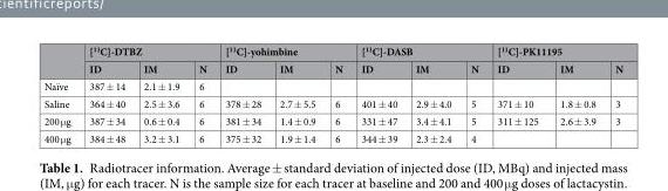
<table><thead><tr><td rowspan="2"></td><td colspan="3">[<sup>11</sup>C]-DTBZ</td><td colspan="3">[<sup>11</sup>C]-yohimbine</td><td colspan="3">[<sup>11</sup>C]-DASB</td><td colspan="3">[<sup>11</sup>C]-PK11195</td></tr><tr><td>ID</td><td>IM</td><td>N</td><td>ID</td><td>IM</td><td>N</td><td>ID</td><td>IM</td><td>N</td><td>ID</td><td>IM</td><td>N</td></tr></thead><tbody><tr><td>Naïve</td><td>387 ± 14</td><td>2.1 ± 1.9</td><td>6</td><td></td><td></td><td></td><td></td><td></td><td></td><td></td><td></td><td></td></tr><tr><td>Saline</td><td>364 ± 40</td><td>2.5 ± 3.6</td><td>6</td><td>378 ± 28</td><td>2.7 ± 5.5</td><td>6</td><td>401 ± 40</td><td>2.9 ± 4.0</td><td>5</td><td>371 ± 10</td><td>1.8 ± 0.8</td><td>3</td></tr><tr><td>200 μg</td><td>387 ± 34</td><td>0.6 ± 0.4</td><td>6</td><td>381 ± 34</td><td>1.4 ± 0.9</td><td>6</td><td>331 ± 47</td><td>3.4 ± 4.1</td><td>5</td><td>311 ± 125</td><td>2.6 ± 3.9</td><td>3</td></tr><tr><td>400 μg</td><td>384 ± 48</td><td>3.2 ± 3.1</td><td>6</td><td>375 ± 32</td><td>1.9 ± 1.4</td><td>6</td><td>344 ± 39</td><td>2.3 ± 2.4</td><td>4</td><td></td><td></td><td></td></tr></tbody></table>